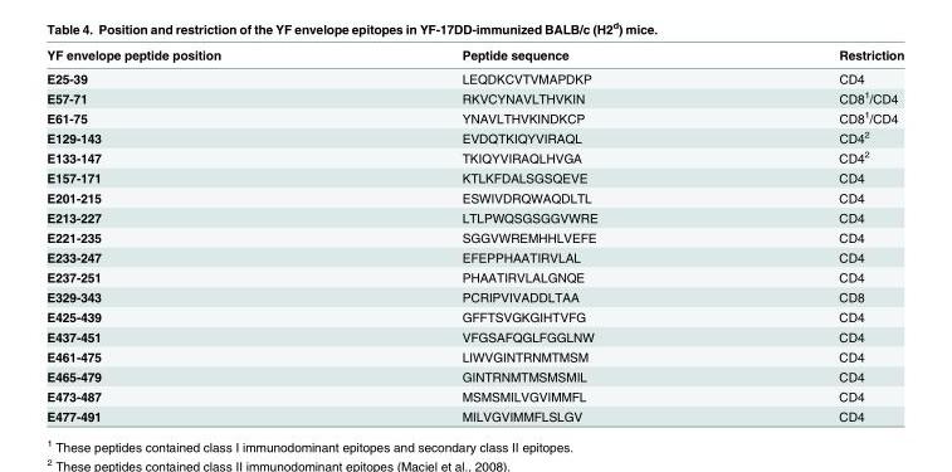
<table><thead><tr><td>YF envelope peptide position</td><td>Peptide sequence</td><td>Restriction</td></tr></thead><tbody><tr><td>E25-39</td><td>LEQDKCVTVMAPDKP</td><td>CD4</td></tr><tr><td>E57-71</td><td>RKVCYNAVLTHVKIN</td><td>CD8<sup>1</sup>/CD4</td></tr><tr><td>E61-75</td><td>YNAVLTHVKINDKCP</td><td>CD8<sup>1</sup>/CD4</td></tr><tr><td>E129-143</td><td>EVDQTKIQYVIRAQL</td><td>CD4<sup>2</sup></td></tr><tr><td>E133-147</td><td>TKIQYVIRAQLHVGA</td><td>CD4<sup>2</sup></td></tr><tr><td>E157-171</td><td>KTLKFDALSGSQEVE</td><td>CD4</td></tr><tr><td>E201-215</td><td>ESWIVDRQWAQDLTL</td><td>CD4</td></tr><tr><td>E213-227</td><td>LTLPWQSGSGGVWRE</td><td>CD4</td></tr><tr><td>E221-235</td><td>SGGVWREMHHLVEFE</td><td>CD4</td></tr><tr><td>E233-247</td><td>EFEPPHAATIRVLAL</td><td>CD4</td></tr><tr><td>E237-251</td><td>PHAATIRVLALGNQE</td><td>CD4</td></tr><tr><td>E329-343</td><td>PCRIPVIVADDLTAA</td><td>CD8</td></tr><tr><td>E425-439</td><td>GFFTSVGKGIHTVFG</td><td>CD4</td></tr><tr><td>E437-451</td><td>VFGSAFQGLFGGLNW</td><td>CD4</td></tr><tr><td>E461-475</td><td>LIWVGINTRNMTMSM</td><td>CD4</td></tr><tr><td>E465-479</td><td>GINTRNMTMSMSMIL</td><td>CD4</td></tr><tr><td>E473-487</td><td>MSMSMILVGVIMMFL</td><td>CD4</td></tr><tr><td>E477-491</td><td>MILVGVIMMFLSLGV</td><td>CD4</td></tr></tbody></table>